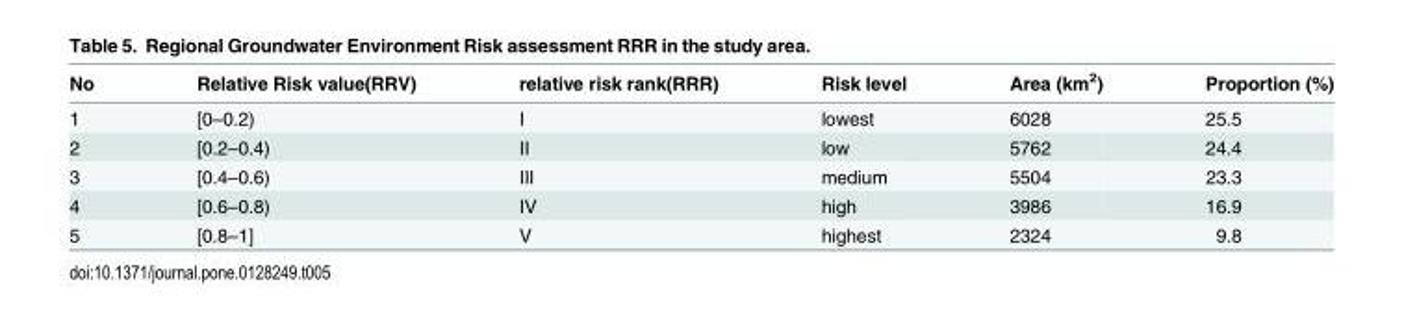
<table><thead><tr><td>No</td><td>Relative Risk value(RRV)</td><td>relative risk rank(RRR)</td><td>Risk level</td><td>Area (km<sup>2</sup>)</td><td>Proportion (%)</td></tr></thead><tbody><tr><td>1</td><td>[0–0.2)</td><td>I</td><td>lowest</td><td>6028</td><td>25.5</td></tr><tr><td>2</td><td>[0.2–0.4)</td><td>II</td><td>low</td><td>5762</td><td>24.4</td></tr><tr><td>3</td><td>[0.4–0.6)</td><td>III</td><td>medium</td><td>5504</td><td>23.3</td></tr><tr><td>4</td><td>[0.6–0.8)</td><td>IV</td><td>high</td><td>3986</td><td>16.9</td></tr><tr><td>5</td><td>[0.8–1]</td><td>V</td><td>highest</td><td>2324</td><td>9.8</td></tr></tbody></table>